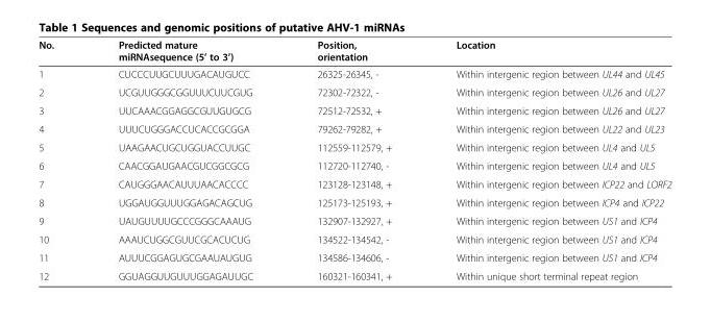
<table><thead><tr><td>No.</td><td>Predicted mature miRNAsequence (5’ to 3’)</td><td>Position, orientation</td><td>Location</td></tr></thead><tbody><tr><td>1</td><td>CUCCCUUGCUUUGACAUGUCC</td><td>26325-26345, -</td><td>Within intergenic region between UL44 and UL45</td></tr><tr><td>2</td><td>UCGUUGGGCGGUUUCUUCGUG</td><td>72302-72322, -</td><td>Within intergenic region between UL26 and UL27</td></tr><tr><td>3</td><td>UUCAAACGGAGGCGUUGUGCG</td><td>72512-72532, +</td><td>Within intergenic region between UL26 and UL27</td></tr><tr><td>4</td><td>UUUCUGGGACCUCACCGCGGA</td><td>79262-79282, +</td><td>Within intergenic region between UL22 and UL23</td></tr><tr><td>5</td><td>UAAGAACUGCUGGUACCUUGC</td><td>112559-112579, +</td><td>Within intergenic region between UL4 and UL5</td></tr><tr><td>6</td><td>CAACGGAUGAACGUCGGCGCG</td><td>112720-112740, -</td><td>Within intergenic region between UL4 and UL5</td></tr><tr><td>7</td><td>CAUGGGAACAUUUAACACCCC</td><td>123128-123148, +</td><td>Within intergenic region between ICP22 and LORF2</td></tr><tr><td>8</td><td>UGGAUGGUUUGGAGACAGCUG</td><td>125173-125193, +</td><td>Within intergenic region between ICP4 and ICP22</td></tr><tr><td>9</td><td>UAUGUUUUGCCCGGGCAAAUG</td><td>132907-132927, +</td><td>Within intergenic region between US1 and ICP4</td></tr><tr><td>10</td><td>AAAUCUGGCGUUCGCACUCUG</td><td>134522-134542, -</td><td>Within intergenic region between US1 and ICP4</td></tr><tr><td>11</td><td>AUUUCGGAGUGCGAAUAUGUG</td><td>134586-134606, -</td><td>Within intergenic region between US1 and ICP4</td></tr><tr><td>12</td><td>GGUAGGUUGUUUGGAGAUUGC</td><td>160321-160341, +</td><td>Within unique short terminal repeat region</td></tr></tbody></table>